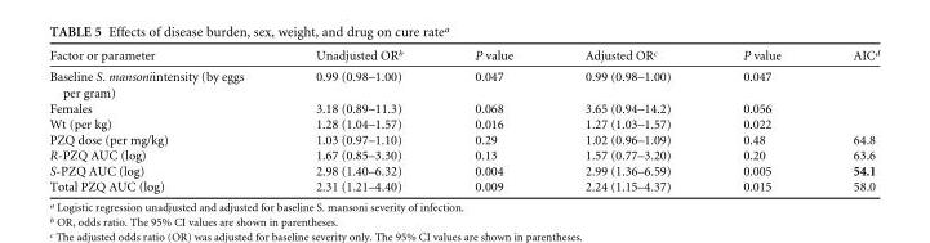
<table><thead><tr><td>Factor or parameter</td><td>Unadjusted OR<sup>b</sup></td><td>P value</td><td>Adjusted OR<sup>c</sup></td><td>P value</td><td>AIC<sup>d</sup></td></tr></thead><tbody><tr><td>Baseline S. mansoniintensity (by eggs per gram)</td><td>0.99 (0.98–1.00)</td><td>0.047</td><td>0.99 (0.98–1.00)</td><td>0.047</td><td></td></tr><tr><td>Females</td><td>3.18 (0.89–11.3)</td><td>0.068</td><td>3.65 (0.94–14.2)</td><td>0.056</td><td></td></tr><tr><td>Wt (per kg)</td><td>1.28 (1.04–1.57)</td><td>0.016</td><td>1.27 (1.03–1.57)</td><td>0.022</td><td></td></tr><tr><td>PZQ dose (per mg/kg)</td><td>1.03 (0.97–1.10)</td><td>0.29</td><td>1.02 (0.96–1.09)</td><td>0.48</td><td>64.8</td></tr><tr><td>R-PZQ AUC (log)</td><td>1.67 (0.85–3.30)</td><td>0.13</td><td>1.57 (0.77–3.20)</td><td>0.20</td><td>63.6</td></tr><tr><td>S-PZQ AUC (log)</td><td>2.98 (1.40–6.32)</td><td>0.004</td><td>2.99 (1.36–6.59)</td><td>0.005</td><td>54.1</td></tr><tr><td>Total PZQ AUC (log)</td><td>2.31 (1.21–4.40)</td><td>0.009</td><td>2.24 (1.15–4.37)</td><td>0.015</td><td>58.0</td></tr></tbody></table>